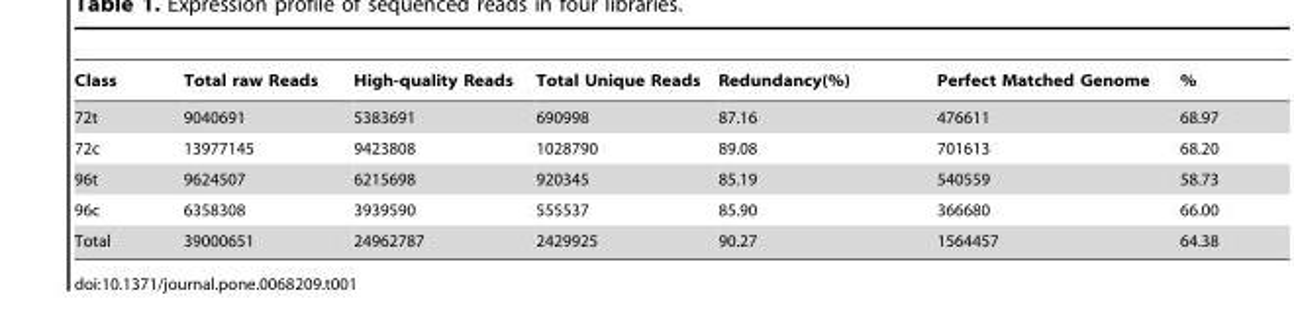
<table><thead><tr><td>Class</td><td>Total raw Reads</td><td>High-quality Reads</td><td>Total Unique Reads</td><td>Redundancy(%)</td><td>Perfect Matched Genome</td><td>%</td></tr></thead><tbody><tr><td>72t</td><td>9040691</td><td>5383691</td><td>690998</td><td>87.16</td><td>476611</td><td>68.97</td></tr><tr><td>72c</td><td>13977145</td><td>9423808</td><td>1028790</td><td>89.08</td><td>701613</td><td>68.20</td></tr><tr><td>96t</td><td>9624507</td><td>6215698</td><td>920345</td><td>85.19</td><td>540559</td><td>58.73</td></tr><tr><td>96c</td><td>6358308</td><td>3939590</td><td>555537</td><td>85.90</td><td>366680</td><td>66.00</td></tr><tr><td>Total</td><td>39000651</td><td>24962787</td><td>2429925</td><td>90.27</td><td>1564457</td><td>64.38</td></tr></tbody></table>